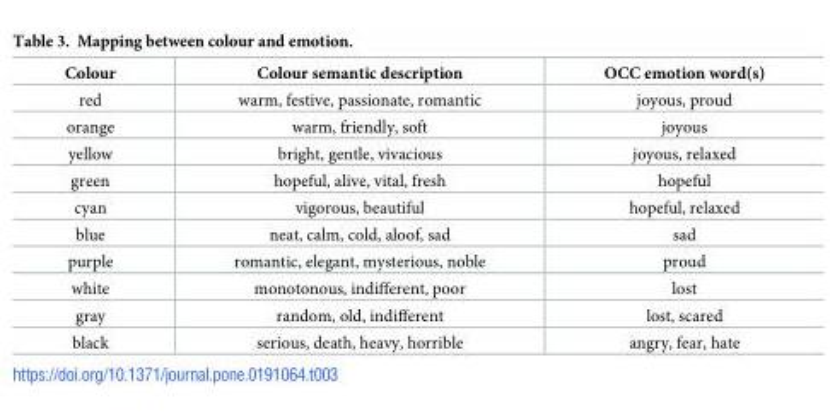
<table><thead><tr><td>Colour</td><td>Colour semantic description</td><td>OCC emotion word(s)</td></tr></thead><tbody><tr><td>red</td><td>warm, festive, passionate, romantic</td><td>joyous, proud</td></tr><tr><td>orange</td><td>warm, friendly, soft</td><td>joyous</td></tr><tr><td>yellow</td><td>bright, gentle, vivacious</td><td>joyous, relaxed</td></tr><tr><td>green</td><td>hopeful, alive, vital, fresh</td><td>hopeful</td></tr><tr><td>cyan</td><td>vigorous, beautiful</td><td>hopeful, relaxed</td></tr><tr><td>blue</td><td>neat, calm, cold, aloof, sad</td><td>sad</td></tr><tr><td>purple</td><td>romantic, elegant, mysterious, noble</td><td>proud</td></tr><tr><td>white</td><td>monotonous, indifferent, poor</td><td>lost</td></tr><tr><td>gray</td><td>random, old, indifferent</td><td>lost, scared</td></tr><tr><td>black</td><td>serious, death, heavy, horrible</td><td>angry, fear, hate</td></tr></tbody></table>